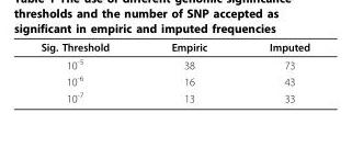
<table><thead><tr><td>Sig. Threshold</td><td>Empiric</td><td>Imputed</td></tr></thead><tbody><tr><td>10<sup>-5</sup></td><td>38</td><td>73</td></tr><tr><td>10<sup>-6</sup></td><td>16</td><td>43</td></tr><tr><td>10<sup>-7</sup></td><td>13</td><td>33</td></tr></tbody></table>